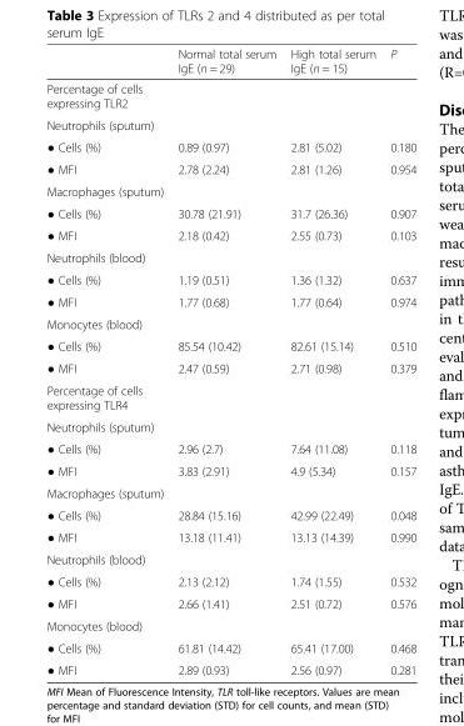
<table><thead><tr><td></td><td>Normal total serum IgE (n = 29)</td><td>High total serum IgE (n = 15)</td><td>P</td></tr></thead><tbody><tr><td colspan="4">Percentage of cells expressing TLR2</td></tr><tr><td colspan="4">Neutrophils (sputum)</td></tr><tr><td>● Cells (%)</td><td>0.89 (0.97)</td><td>2.81 (5.02)</td><td>0.180</td></tr><tr><td>● MFI</td><td>2.78 (2.24)</td><td>2.81 (1.26)</td><td>0.954</td></tr><tr><td colspan="4">Macrophages (sputum)</td></tr><tr><td>● Cells (%)</td><td>30.78 (21.91)</td><td>31.7 (26.36)</td><td>0.907</td></tr><tr><td>● MFI</td><td>2.18 (0.42)</td><td>2.55 (0.73)</td><td>0.103</td></tr><tr><td colspan="4">Neutrophils (blood)</td></tr><tr><td>● Cells (%)</td><td>1.19 (0.51)</td><td>1.36 (1.32)</td><td>0.637</td></tr><tr><td>● MFI</td><td>1.77 (0.68)</td><td>1.77 (0.64)</td><td>0.974</td></tr><tr><td colspan="4">Monocytes (blood)</td></tr><tr><td>● Cells (%)</td><td>85.54 (10.42)</td><td>82.61 (15.14)</td><td>0.510</td></tr><tr><td>● MFI</td><td>2.47 (0.59)</td><td>2.71 (0.98)</td><td>0.379</td></tr><tr><td colspan="4">Percentage of cells expressing TLR4</td></tr><tr><td colspan="4">Neutrophils (sputum)</td></tr><tr><td>● Cells (%)</td><td>2.96 (2.7)</td><td>7.64 (11.08)</td><td>0.118</td></tr><tr><td>● MFI</td><td>3.83 (2.91)</td><td>4.9 (5.34)</td><td>0.157</td></tr><tr><td colspan="4">Macrophages (sputum)</td></tr><tr><td>● Cells (%)</td><td>28.84 (15.16)</td><td>42.99 (22.49)</td><td>0.048</td></tr><tr><td>● MFI</td><td>13.18 (11.41)</td><td>13.13 (14.39)</td><td>0.990</td></tr><tr><td colspan="4">Neutrophils (blood)</td></tr><tr><td>● Cells (%)</td><td>2.13 (2.12)</td><td>1.74 (1.55)</td><td>0.532</td></tr><tr><td>● MFI</td><td>2.66 (1.41)</td><td>2.51 (0.72)</td><td>0.576</td></tr><tr><td colspan="4">Monocytes (blood)</td></tr><tr><td>● Cells (%)</td><td>61.81 (14.42)</td><td>65.41 (17.00)</td><td>0.468</td></tr><tr><td>● MFI</td><td>2.89 (0.93)</td><td>2.56 (0.97)</td><td>0.281</td></tr></tbody></table>